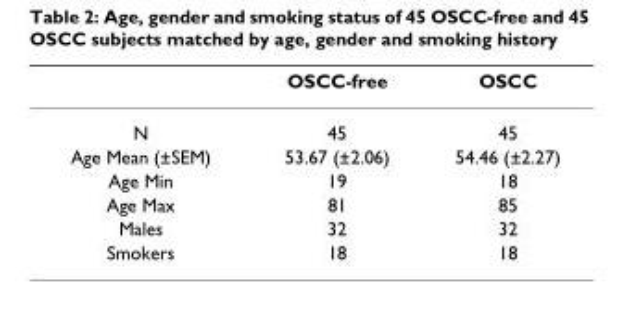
<table><thead><tr><td></td><td>OSCC-free</td><td>OSCC</td></tr></thead><tbody><tr><td>N</td><td>45</td><td>45</td></tr><tr><td>Age Mean (±SEM)</td><td>53.67 (±2.06)</td><td>54.46 (±2.27)</td></tr><tr><td>Age Min</td><td>19</td><td>18</td></tr><tr><td>Age Max</td><td>81</td><td>85</td></tr><tr><td>Males</td><td>32</td><td>32</td></tr><tr><td>Smokers</td><td>18</td><td>18</td></tr></tbody></table>